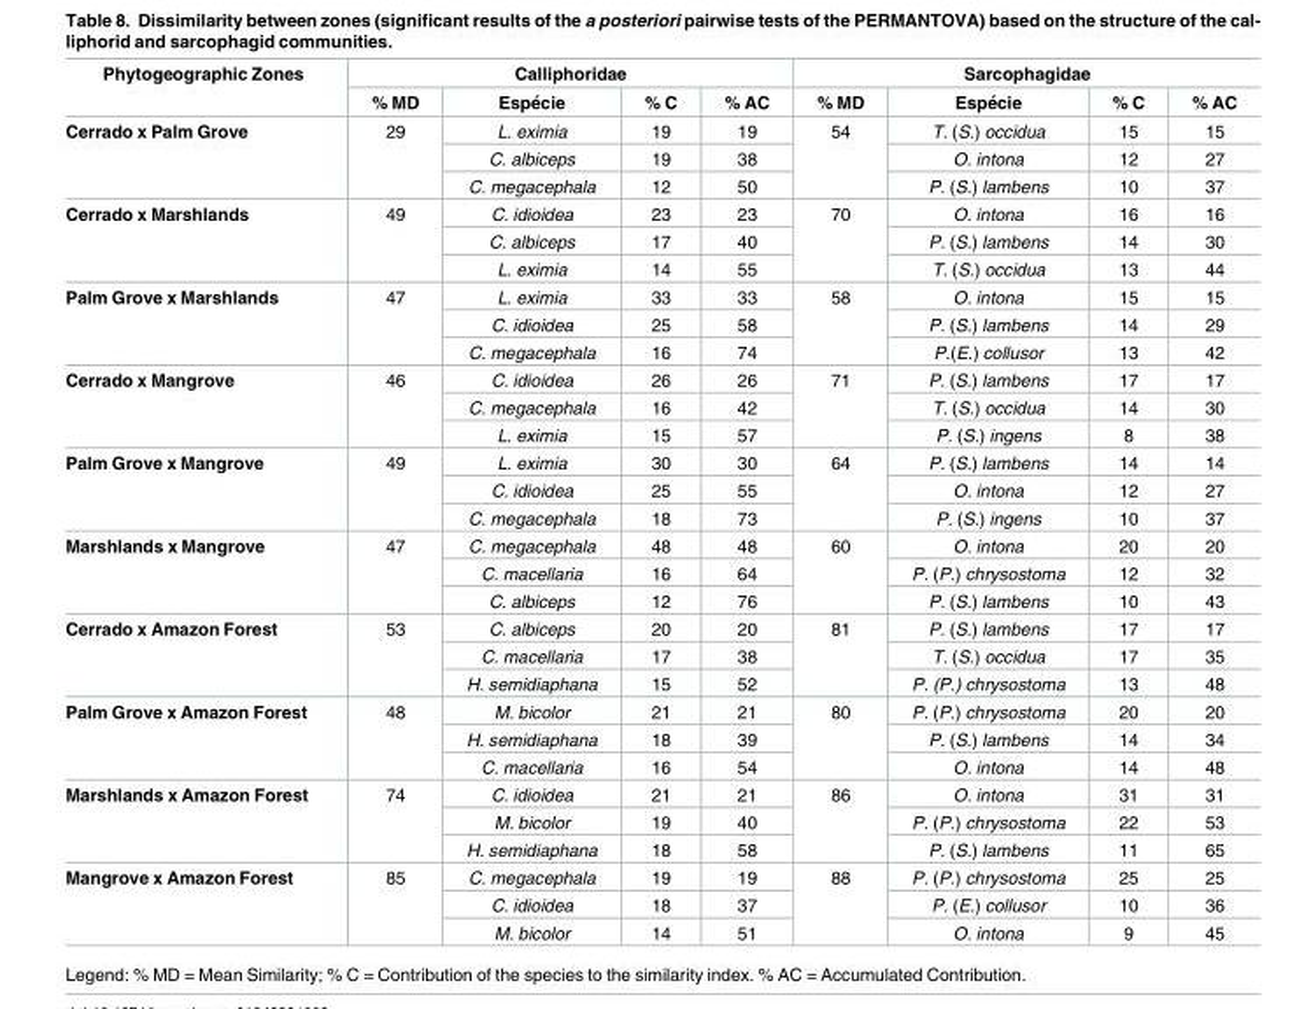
<table><thead><tr><td rowspan="2">Phytogeographic Zones</td><td colspan="4">Calliphoridae</td><td colspan="4">Sarcophagidae</td></tr><tr><td>% MD</td><td>Espe´cie</td><td>% C</td><td>% AC</td><td>% MD</td><td>Espe´cie</td><td>% C</td><td>% AC</td></tr></thead><tbody><tr><td rowspan="3">Cerrado x Palm Grove</td><td rowspan="3">29</td><td>L. eximia</td><td>19</td><td>19</td><td rowspan="3">54</td><td>T. (S.) occidua</td><td>15</td><td>15</td></tr><tr><td>C. albiceps</td><td>19</td><td>38</td><td>O. intona</td><td>12</td><td>27</td></tr><tr><td>C. megacephala</td><td>12</td><td>50</td><td>P. (S.) lambens</td><td>10</td><td>37</td></tr><tr><td rowspan="3">Cerrado x Marshlands</td><td rowspan="3">49</td><td>C. idioidea</td><td>23</td><td>23</td><td rowspan="3">70</td><td>O. intona</td><td>16</td><td>16</td></tr><tr><td>C. albiceps</td><td>17</td><td>40</td><td>P. (S.) lambens</td><td>14</td><td>30</td></tr><tr><td>L. eximia</td><td>14</td><td>55</td><td>T. (S.) occidua</td><td>13</td><td>44</td></tr><tr><td rowspan="3">Palm Grove x Marshlands</td><td rowspan="3">47</td><td>L. eximia</td><td>33</td><td>33</td><td rowspan="3">58</td><td>O. intona</td><td>15</td><td>15</td></tr><tr><td>C. idioidea</td><td>25</td><td>58</td><td>P. (S.) lambens</td><td>14</td><td>29</td></tr><tr><td>C. megacephala</td><td>16</td><td>74</td><td>P.(E.) collusor</td><td>13</td><td>42</td></tr><tr><td rowspan="3">Cerrado x Mangrove</td><td rowspan="3">46</td><td>C. idioidea</td><td>26</td><td>26</td><td rowspan="3">71</td><td>P. (S.) lambens</td><td>17</td><td>17</td></tr><tr><td>C. megacephala</td><td>16</td><td>42</td><td>T. (S.) occidua</td><td>14</td><td>30</td></tr><tr><td>L. eximia</td><td>15</td><td>57</td><td>P. (S.) ingens</td><td>8</td><td>38</td></tr><tr><td rowspan="3">Palm Grove x Mangrove</td><td rowspan="3">49</td><td>L. eximia</td><td>30</td><td>30</td><td rowspan="3">64</td><td>P. (S.) lambens</td><td>14</td><td>14</td></tr><tr><td>C. idioidea</td><td>25</td><td>55</td><td>O. intona</td><td>12</td><td>27</td></tr><tr><td>C. megacephala</td><td>18</td><td>73</td><td>P. (S.) ingens</td><td>10</td><td>37</td></tr><tr><td rowspan="3">Marshlands x Mangrove</td><td rowspan="3">47</td><td>C. megacephala</td><td>48</td><td>48</td><td rowspan="3">60</td><td>O. intona</td><td>20</td><td>20</td></tr><tr><td>C. macellaria</td><td>16</td><td>64</td><td>P. (P.) chrysostoma</td><td>12</td><td>32</td></tr><tr><td>C. albiceps</td><td>12</td><td>76</td><td>P. (S.) lambens</td><td>10</td><td>43</td></tr><tr><td rowspan="3">Cerrado x Amazon Forest</td><td rowspan="3">53</td><td>C. albiceps</td><td>20</td><td>20</td><td rowspan="3">81</td><td>P. (S.) lambens</td><td>17</td><td>17</td></tr><tr><td>C. macellaria</td><td>17</td><td>38</td><td>T. (S.) occidua</td><td>17</td><td>35</td></tr><tr><td>H. semidiaphana</td><td>15</td><td>52</td><td>P. (P.) chrysostoma</td><td>13</td><td>48</td></tr><tr><td rowspan="3">Palm Grove x Amazon Forest</td><td rowspan="3">48</td><td>M. bicolor</td><td>21</td><td>21</td><td rowspan="3">80</td><td>P. (P.) chrysostoma</td><td>20</td><td>20</td></tr><tr><td>H. semidiaphana</td><td>18</td><td>39</td><td>P. (S.) lambens</td><td>14</td><td>34</td></tr><tr><td>C. macellaria</td><td>16</td><td>54</td><td>O. intona</td><td>14</td><td>48</td></tr><tr><td rowspan="3">Marshlands x Amazon Forest</td><td rowspan="3">74</td><td>C. idioidea</td><td>21</td><td>21</td><td rowspan="3">86</td><td>O. intona</td><td>31</td><td>31</td></tr><tr><td>M. bicolor</td><td>19</td><td>40</td><td>P. (P.) chrysostoma</td><td>22</td><td>53</td></tr><tr><td>H. semidiaphana</td><td>18</td><td>58</td><td>P. (S.) lambens</td><td>11</td><td>65</td></tr><tr><td rowspan="3">Mangrove x Amazon Forest</td><td rowspan="3">85</td><td>C. megacephala</td><td>19</td><td>19</td><td rowspan="3">88</td><td>P. (P.) chrysostoma</td><td>25</td><td>25</td></tr><tr><td>C. idioidea</td><td>18</td><td>37</td><td>P. (E.) collusor</td><td>10</td><td>36</td></tr><tr><td>M. bicolor</td><td>14</td><td>51</td><td>O. intona</td><td>9</td><td>45</td></tr></tbody></table>